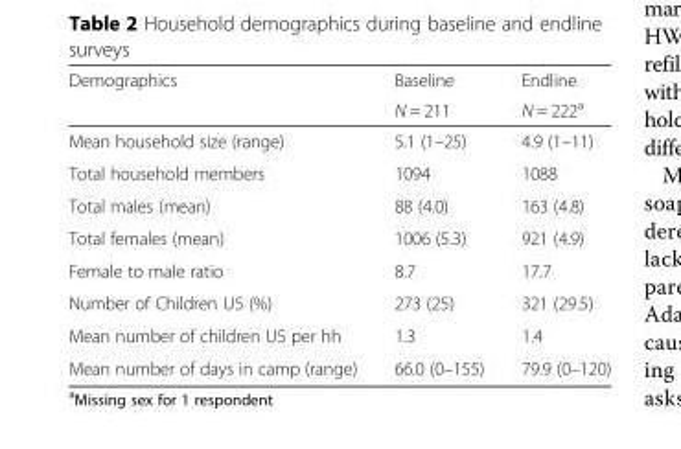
<table><thead><tr><td rowspan="2">Demographics</td><td rowspan="2">Baseline N = 211</td><td rowspan="2">Endline N = 222<sup>a</sup></td></tr><tr></tr></thead><tbody><tr><td>Mean household size (range)</td><td>5.1 (1–25)</td><td>4.9 (1–11)</td></tr><tr><td>Total household members</td><td>1094</td><td>1088</td></tr><tr><td>Total males (mean)</td><td>88 (4.0)</td><td>163 (4.8)</td></tr><tr><td>Total females (mean)</td><td>1006 (5.3)</td><td>921 (4.9)</td></tr><tr><td>Female to male ratio</td><td>8.7</td><td>17.7</td></tr><tr><td>Number of Children U5 (%)</td><td>273 (25)</td><td>321 (29.5)</td></tr><tr><td>Mean number of children U5 per hh</td><td>1.3</td><td>1.4</td></tr><tr><td>Mean number of days in camp (range)</td><td>66.0 (0–155)</td><td>79.9 (0–120)</td></tr></tbody></table>